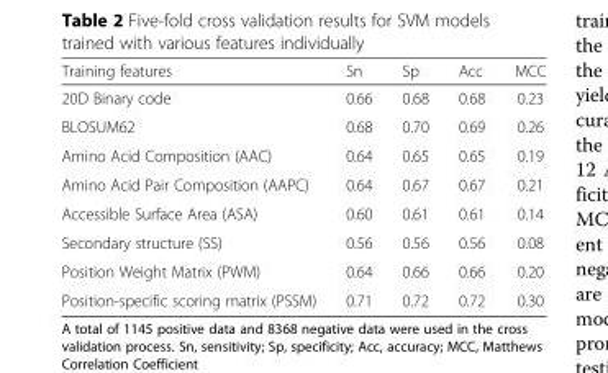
<table><thead><tr><td>Training features</td><td>Sn</td><td>Sp</td><td>Acc</td><td>MCC</td></tr></thead><tbody><tr><td>20D Binary code</td><td>0.66</td><td>0.68</td><td>0.68</td><td>0.23</td></tr><tr><td>BLOSUM62</td><td>0.68</td><td>0.70</td><td>0.69</td><td>0.26</td></tr><tr><td>Amino Acid Composition (AAC)</td><td>0.64</td><td>0.65</td><td>0.65</td><td>0.19</td></tr><tr><td>Amino Acid Pair Composition (AAPC)</td><td>0.64</td><td>0.67</td><td>0.67</td><td>0.21</td></tr><tr><td>Accessible Surface Area (ASA)</td><td>0.60</td><td>0.61</td><td>0.61</td><td>0.14</td></tr><tr><td>Secondary structure (SS)</td><td>0.56</td><td>0.56</td><td>0.56</td><td>0.08</td></tr><tr><td>Position Weight Matrix (PWM)</td><td>0.64</td><td>0.66</td><td>0.66</td><td>0.20</td></tr><tr><td>Position-specific scoring matrix (PSSM)</td><td>0.71</td><td>0.72</td><td>0.72</td><td>0.30</td></tr></tbody></table>